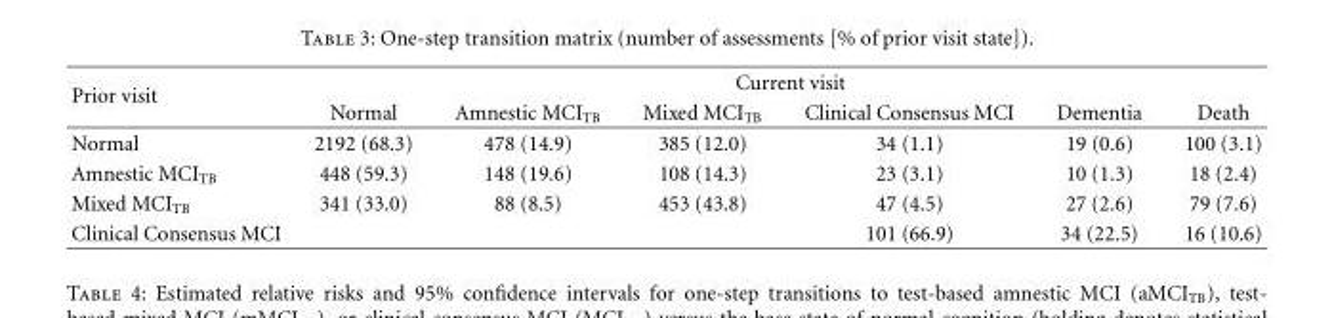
<table><thead><tr><td rowspan="2">Prior visit</td><td colspan="6">Current visit</td></tr><tr><td>Normal</td><td>Amnestic MCI<sub>TB</sub></td><td>Mixed MCI<sub>TB</sub></td><td>Clinical Consensus MCI</td><td>Dementia</td><td>Death</td></tr></thead><tbody><tr><td>Normal</td><td>2192 (68.3)</td><td>478 (14.9)</td><td>385 (12.0)</td><td>34 (1.1)</td><td>19 (0.6)</td><td>100 (3.1)</td></tr><tr><td>Amnestic MCI<sub>TB</sub></td><td>448 (59.3)</td><td>148 (19.6)</td><td>108 (14.3)</td><td>23 (3.1)</td><td>10 (1.3)</td><td>18 (2.4)</td></tr><tr><td>Mixed MCI<sub>TB</sub></td><td>341 (33.0)</td><td>88 (8.5)</td><td>453 (43.8)</td><td>47 (4.5)</td><td>27 (2.6)</td><td>79 (7.6)</td></tr><tr><td>Clinical Consensus MCI</td><td></td><td></td><td></td><td>101 (66.9)</td><td>34 (22.5)</td><td>16 (10.6)</td></tr></tbody></table>